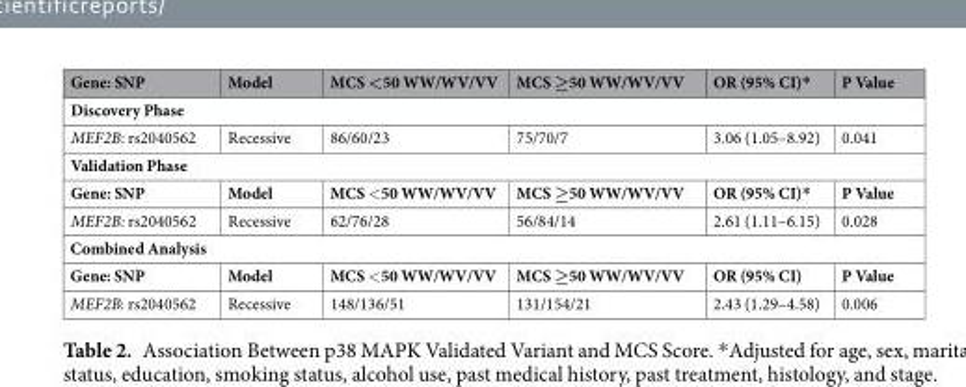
<table><thead><tr><td>Gene: SNP</td><td>Model</td><td>MCS &lt;50 WW/WV/VV</td><td>MCS ≥50 WW/WV/VV</td><td>OR (95% CI)*</td><td>P Value</td></tr></thead><tbody><tr><td colspan="6">Discovery Phase</td></tr><tr><td>MEF2B: rs2040562</td><td>Recessive</td><td>86/60/23</td><td>75/70/7</td><td>3.06 (1.05–8.92)</td><td>0.041</td></tr><tr><td colspan="6">Validation Phase</td></tr><tr><td>Gene: SNP</td><td>Model</td><td>MCS &lt;50 WW/WV/VV</td><td>MCS ≥50 WW/WV/VV</td><td>OR (95% CI)*</td><td>P Value</td></tr><tr><td>MEF2B: rs2040562</td><td>Recessive</td><td>62/76/28</td><td>56/84/14</td><td>2.61 (1.11–6.15)</td><td>0.028</td></tr><tr><td colspan="6">Combined Analysis</td></tr><tr><td>Gene: SNP</td><td>Model</td><td>MCS &lt;50 WW/WV/VV</td><td>MCS ≥50 WW/WV/VV</td><td>OR (95% CI)</td><td>P Value</td></tr><tr><td>MEF2B: rs2040562</td><td>Recessive</td><td>148/136/51</td><td>131/154/21</td><td>2.43 (1.29–4.58)</td><td>0.006</td></tr></tbody></table>